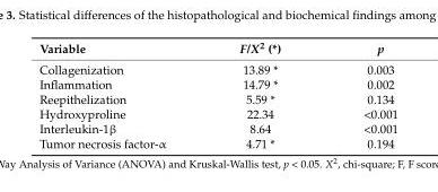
<table><thead><tr><td>Variable</td><td>F/X<sup>2</sup> (*)</td><td>p</td></tr></thead><tbody><tr><td>Collagenization</td><td>13.89 *</td><td>0.003</td></tr><tr><td>Inflammation</td><td>14.79 *</td><td>0.002</td></tr><tr><td>Reepithelization</td><td>5.59 *</td><td>0.134</td></tr><tr><td>Hydroxyproline</td><td>22.34</td><td>&lt;0.001</td></tr><tr><td>Interleukin-1β</td><td>8.64</td><td>&lt;0.001</td></tr><tr><td>Tumor necrosis factor-α</td><td>4.71 *</td><td>0.194</td></tr></tbody></table>